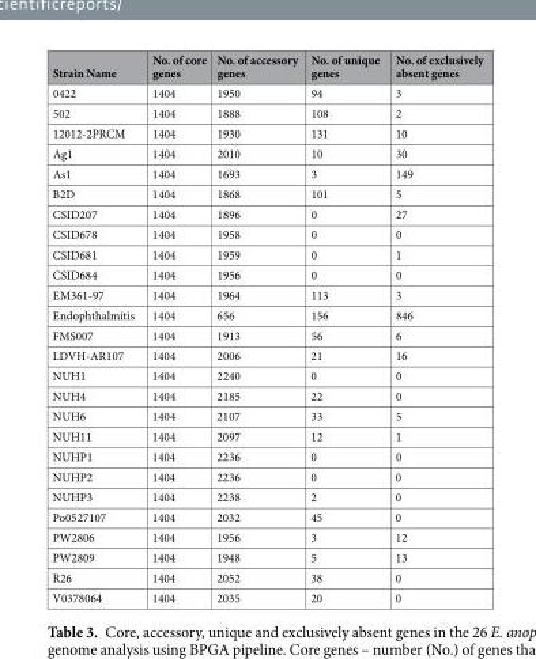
<table><thead><tr><td>Strain Name</td><td>No. of core genes</td><td>No. of accessory genes</td><td>No. of unique genes</td><td>No. of exclusively absent genes</td></tr></thead><tbody><tr><td>0422</td><td>1404</td><td>1950</td><td>94</td><td>3</td></tr><tr><td>502</td><td>1404</td><td>1888</td><td>108</td><td>2</td></tr><tr><td>12012-2PRCM</td><td>1404</td><td>1930</td><td>131</td><td>10</td></tr><tr><td>Ag1</td><td>1404</td><td>2010</td><td>10</td><td>30</td></tr><tr><td>As1</td><td>1404</td><td>1693</td><td>3</td><td>149</td></tr><tr><td>B2D</td><td>1404</td><td>1868</td><td>101</td><td>5</td></tr><tr><td>CSID207</td><td>1404</td><td>1896</td><td>0</td><td>27</td></tr><tr><td>CSID678</td><td>1404</td><td>1958</td><td>0</td><td>0</td></tr><tr><td>CSID681</td><td>1404</td><td>1959</td><td>0</td><td>1</td></tr><tr><td>CSID684</td><td>1404</td><td>1956</td><td>0</td><td>0</td></tr><tr><td>EM361-97</td><td>1404</td><td>1964</td><td>113</td><td>3</td></tr><tr><td>Endophthalmitis</td><td>1404</td><td>656</td><td>156</td><td>846</td></tr><tr><td>FMS007</td><td>1404</td><td>1913</td><td>56</td><td>6</td></tr><tr><td>LDVH-AR107</td><td>1404</td><td>2006</td><td>21</td><td>16</td></tr><tr><td>NUH1</td><td>1404</td><td>2240</td><td>0</td><td>0</td></tr><tr><td>NUH4</td><td>1404</td><td>2185</td><td>22</td><td>0</td></tr><tr><td>NUH6</td><td>1404</td><td>2107</td><td>33</td><td>5</td></tr><tr><td>NUH11</td><td>1404</td><td>2097</td><td>12</td><td>1</td></tr><tr><td>NUHP1</td><td>1404</td><td>2236</td><td>0</td><td>0</td></tr><tr><td>NUHP2</td><td>1404</td><td>2236</td><td>0</td><td>0</td></tr><tr><td>NUHP3</td><td>1404</td><td>2238</td><td>2</td><td>0</td></tr><tr><td>Po0527107</td><td>1404</td><td>2032</td><td>45</td><td>0</td></tr><tr><td>PW2806</td><td>1404</td><td>1956</td><td>3</td><td>12</td></tr><tr><td>PW2809</td><td>1404</td><td>1948</td><td>5</td><td>13</td></tr><tr><td>R26</td><td>1404</td><td>2052</td><td>38</td><td>0</td></tr><tr><td>V0378064</td><td>1404</td><td>2035</td><td>20</td><td>0</td></tr></tbody></table>